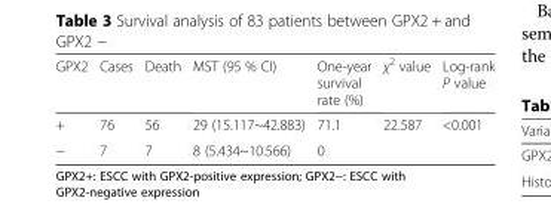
<table><thead><tr><td>GPX2</td><td>Cases</td><td>Death</td><td>MST (95 % CI)</td><td>One-year survival rate (%)</td><td>χ<sup>2</sup> value</td><td>Log-rank P value</td></tr></thead><tbody><tr><td>+</td><td>76</td><td>56</td><td>29 (15.117~42.883)</td><td>71.1</td><td>22.587</td><td>&lt;0.001</td></tr><tr><td>−</td><td>7</td><td>7</td><td>8 (5.434~10.566)</td><td>0</td><td></td><td></td></tr></tbody></table>